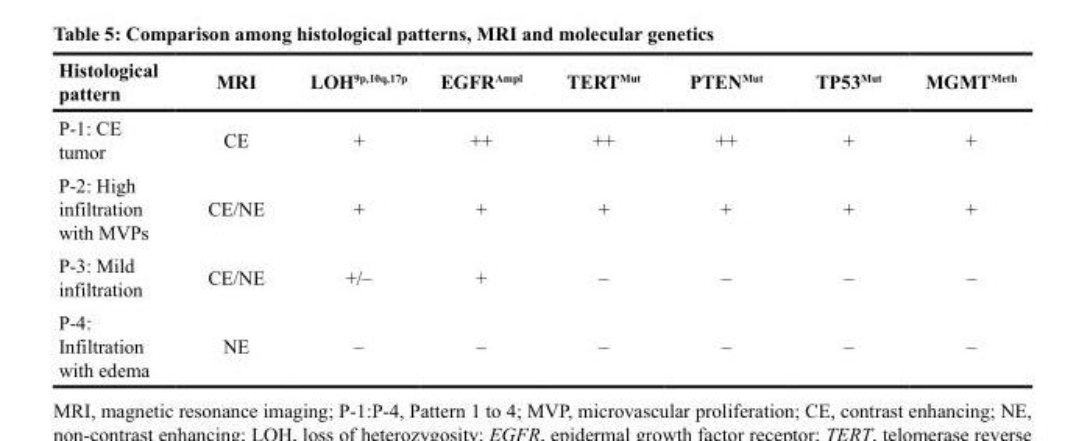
<table><thead><tr><td>Histological pattern</td><td>MRI</td><td>LOH<sup>9p,10q,17p</sup></td><td>EGFR<sup>Ampl</sup></td><td>TERT<sup>Mut</sup></td><td>PTEN<sup>Mut</sup></td><td>TP53<sup>Mut</sup></td><td>MGMT<sup>Meth</sup></td></tr></thead><tbody><tr><td>P-1: CE tumor</td><td>CE</td><td>+</td><td>++</td><td>++</td><td>++</td><td>+</td><td>+</td></tr><tr><td>P-2: High infiltration with MVPs</td><td>CE/NE</td><td>+</td><td>+</td><td>+</td><td>+</td><td>+</td><td>+</td></tr><tr><td>P-3: Mild infiltration</td><td>CE/NE</td><td>+/–</td><td>+</td><td>–</td><td>–</td><td>–</td><td>–</td></tr><tr><td>P-4: Infiltration with edema</td><td>NE</td><td>–</td><td>–</td><td>–</td><td>–</td><td>–</td><td>–</td></tr></tbody></table>